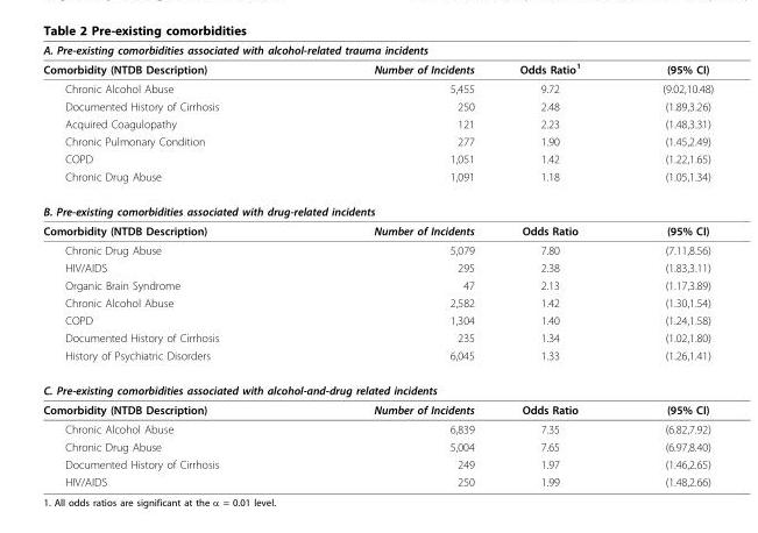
<table><thead><tr><td colspan="4">A. Pre-existing comorbidities associated with alcohol-related trauma incidents</td></tr><tr><td>Comorbidity (NTDB Description)</td><td>Number of Incidents</td><td>Odds Ratio<sup>1</sup></td><td>(95% CI)</td></tr></thead><tbody><tr><td>Chronic Alcohol Abuse</td><td>5,455</td><td>9.72</td><td>(9.02,10.48)</td></tr><tr><td>Documented History of Cirrhosis</td><td>250</td><td>2.48</td><td>(1.89,3.26)</td></tr><tr><td>Acquired Coagulopathy</td><td>121</td><td>2.23</td><td>(1.48,3.31)</td></tr><tr><td>Chronic Pulmonary Condition</td><td>277</td><td>1.90</td><td>(1.45,2.49)</td></tr><tr><td>COPD</td><td>1,051</td><td>1.42</td><td>(1.22,1.65)</td></tr><tr><td>Chronic Drug Abuse</td><td>1,091</td><td>1.18</td><td>(1.05,1.34)</td></tr><tr><td colspan="4">B. Pre-existing comorbidities associated with drug-related incidents</td></tr><tr><td>Comorbidity (NTDB Description)</td><td>Number of Incidents</td><td>Odds Ratio</td><td>(95% CI)</td></tr><tr><td>Chronic Drug Abuse</td><td>5,079</td><td>7.80</td><td>(7.11,8.56)</td></tr><tr><td>HIV/AIDS</td><td>295</td><td>2.38</td><td>(1.83,3.11)</td></tr><tr><td>Organic Brain Syndrome</td><td>47</td><td>2.13</td><td>(1.17,3.89)</td></tr><tr><td>Chronic Alcohol Abuse</td><td>2,582</td><td>1.42</td><td>(1.30,1.54)</td></tr><tr><td>COPD</td><td>1,304</td><td>1.40</td><td>(1.24,1.58)</td></tr><tr><td>Documented History of Cirrhosis</td><td>235</td><td>1.34</td><td>(1.02,1.80)</td></tr><tr><td>History of Psychiatric Disorders</td><td>6,045</td><td>1.33</td><td>(1.26,1.41)</td></tr><tr><td colspan="4">C. Pre-existing comorbidities associated with alcohol-and-drug related incidents</td></tr><tr><td>Comorbidity (NTDB Description)</td><td>Number of Incidents</td><td>Odds Ratio</td><td>(95% CI)</td></tr><tr><td>Chronic Alcohol Abuse</td><td>6,839</td><td>7.35</td><td>(6.82,7.92)</td></tr><tr><td>Chronic Drug Abuse</td><td>5,004</td><td>7.65</td><td>(6.97,8.40)</td></tr><tr><td>Documented History of Cirrhosis</td><td>249</td><td>1.97</td><td>(1.46,2.65)</td></tr><tr><td>HIV/AIDS</td><td>250</td><td>1.99</td><td>(1.48,2.66)</td></tr></tbody></table>